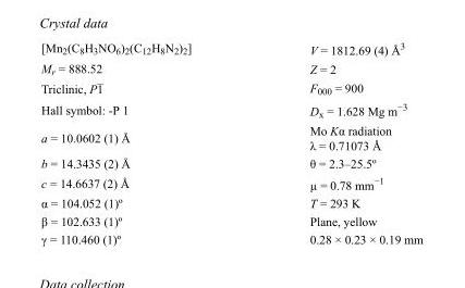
<table><tbody><tr><td>[Mn<sub>2</sub>(C<sub>8</sub>H<sub>3</sub>NO<sub>6</sub>)<sub>2</sub>(C<sub>12</sub>H<sub>8</sub>N<sub>2</sub>)<sub>2</sub>]</td><td>V = 1812.69 (4) Å<sup>3</sup></td></tr><tr><td>M<sub>r</sub> = 888.52</td><td>Z = 2</td></tr><tr><td>Triclinic, P1</td><td>F000 = 900</td></tr><tr><td>Hall symbol: -P 1</td><td>D<sub>x</sub> = 1.628 Mg m<sup>−3</sup></td></tr><tr><td>a = 10.0602 (1) Å</td><td>Mo Kα radiation λ = 0.71073 Å</td></tr><tr><td>b = 14.3435 (2) Å</td><td>θ = 2.3–25.5º</td></tr><tr><td>c = 14.6637 (2) Å</td><td>µ = 0.78 mm<sup>−1</sup></td></tr><tr><td>α = 104.052 (1)º</td><td>T = 293 K</td></tr><tr><td>β = 102.633 (1)º</td><td>Plane, yellow</td></tr><tr><td>γ = 110.460 (1)º</td><td>0.28 × 0.23 × 0.19 mm</td></tr></tbody></table>